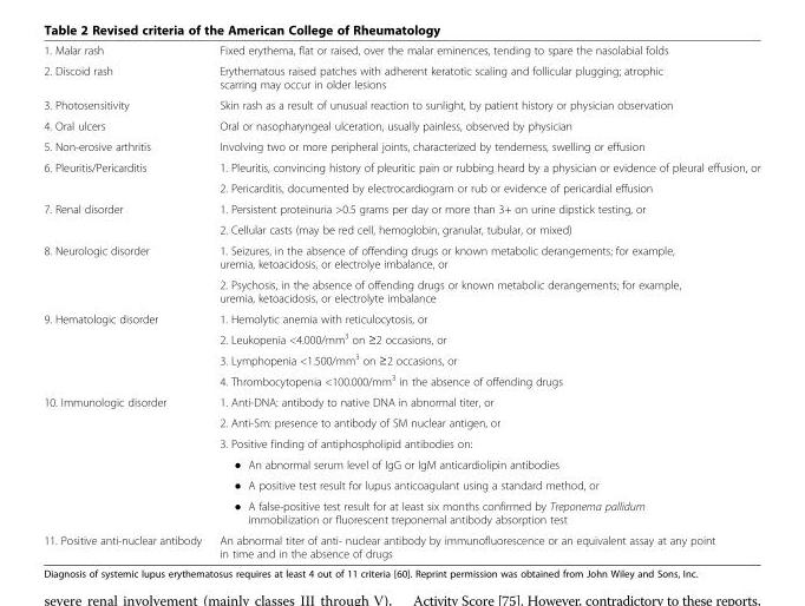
<table><tbody><tr><td>1. Malar rash</td><td>Fixed erythema, flat or raised, over the malar eminences, tending to spare the nasolabial folds</td></tr><tr><td>2. Discoid rash</td><td>Erythematous raised patches with adherent keratotic scaling and follicular plugging; atrophic scarring may occur in older lesions</td></tr><tr><td>3. Photosensitivity</td><td>Skin rash as a result of unusual reaction to sunlight, by patient history or physician observation</td></tr><tr><td>4. Oral ulcers</td><td>Oral or nasopharyngeal ulceration, usually painless, observed by physician</td></tr><tr><td>5. Non-erosive arthritis</td><td>Involving two or more peripheral joints, characterized by tenderness, swelling or effusion</td></tr><tr><td rowspan="2">6. Pleuritis/Pericarditis</td><td>1. Pleuritis, convincing history of pleuritic pain or rubbing heard by a physician or evidence of pleural effusion, or</td></tr><tr><td>2. Pericarditis, documented by electrocardiogram or rub or evidence of pericardial effusion</td></tr><tr><td rowspan="2">7. Renal disorder</td><td>1. Persistent proteinuria &gt;0.5 grams per day or more than 3+ on urine dipstick testing, or</td></tr><tr><td>2. Cellular casts (may be red cell, hemoglobin, granular, tubular, or mixed)</td></tr><tr><td rowspan="2">8. Neurologic disorder</td><td>1. Seizures, in the absence of offending drugs or known metabolic derangements; for example, uremia, ketoacidosis, or electrolye imbalance, or</td></tr><tr><td>2. Psychosis, in the absence of offending drugs or known metabolic derangements; for example, uremia, ketoacidosis, or electrolyte imbalance</td></tr><tr><td rowspan="4">9. Hematologic disorder</td><td>1. Hemolytic anemia with reticulocytosis, or</td></tr><tr><td>2. Leukopenia &lt;4.000/mm<sup>3</sup> on ≥2 occasions, or</td></tr><tr><td>3. Lymphopenia &lt;1.500/mm<sup>3</sup> on ≥2 occasions, or</td></tr><tr><td>4. Thrombocytopenia &lt;100.000/mm<sup>3</sup> in the absence of offending drugs</td></tr><tr><td rowspan="6">10. Immunologic disorder</td><td>1. Anti-DNA: antibody to native DNA in abnormal titer, or</td></tr><tr><td>2. Anti-Sm: presence to antibody of SM nuclear antigen, or</td></tr><tr><td>3. Positive finding of antiphospholipid antibodies on:</td></tr><tr><td>● An abnormal serum level of IgG or IgM anticardiolipin antibodies</td></tr><tr><td>● A positive test result for lupus anticoagulant using a standard method, or</td></tr><tr><td>● A false-positive test result for at least six months confirmed by Treponema pallidum immobilization or fluorescent treponemal antibody absorption test</td></tr><tr><td>11. Positive anti-nuclear antibody</td><td>An abnormal titer of anti- nuclear antibody by immunofluorescence or an equivalent assay at any point in time and in the absence of drugs</td></tr></tbody></table>